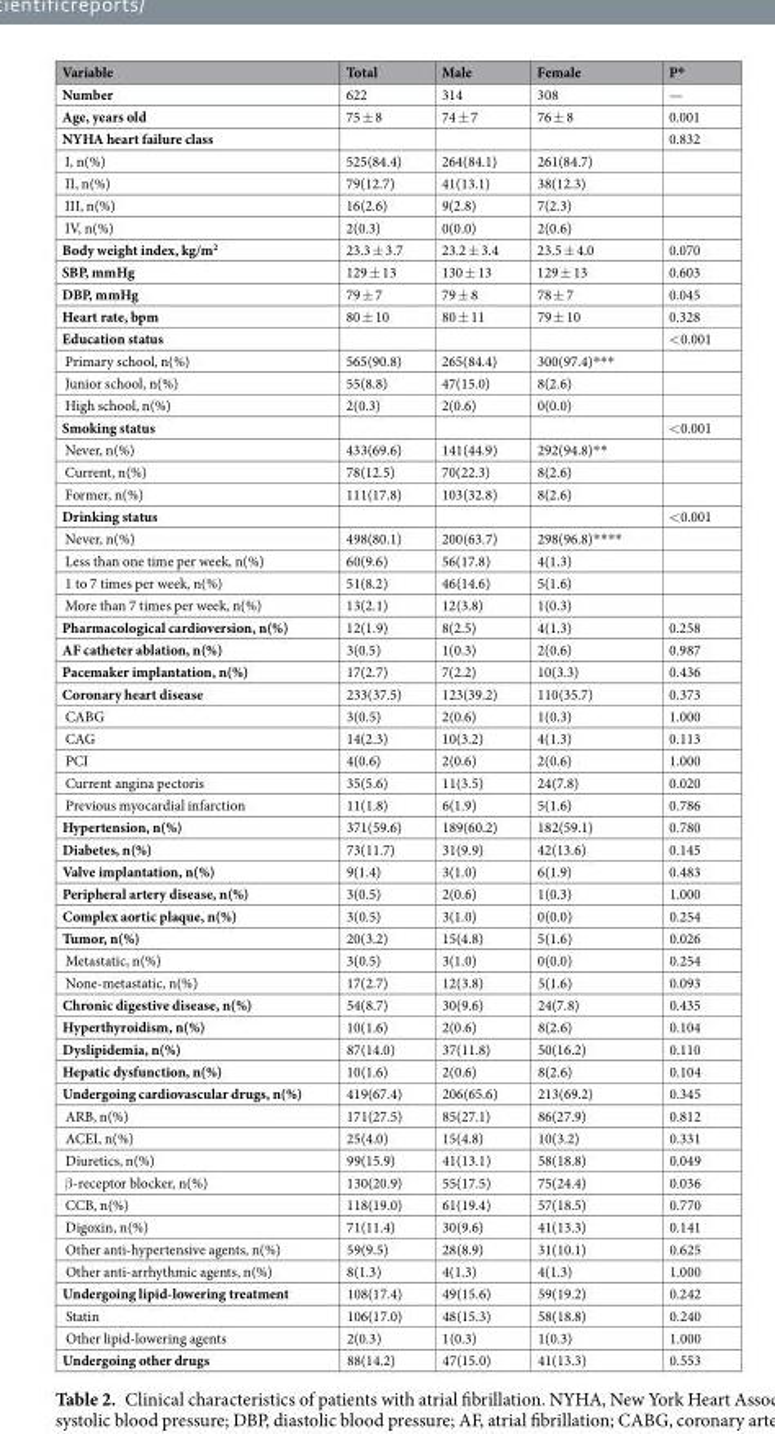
<table><thead><tr><td>Variable</td><td>Total</td><td>Male</td><td>Female</td><td>P*</td></tr></thead><tbody><tr><td>Number</td><td>622</td><td>314</td><td>308</td><td>—</td></tr><tr><td>Age, years old</td><td>75 ± 8</td><td>74 ± 7</td><td>76 ± 8</td><td>0.001</td></tr><tr><td>NYHA heart failure class</td><td></td><td></td><td></td><td>0.832</td></tr><tr><td>I, n(%)</td><td>525(84.4)</td><td>264(84.1)</td><td>261(84.7)</td><td></td></tr><tr><td>II, n(%)</td><td>79(12.7)</td><td>41(13.1)</td><td>38(12.3)</td><td></td></tr><tr><td>III, n(%)</td><td>16(2.6)</td><td>9(2.8)</td><td>7(2.3)</td><td></td></tr><tr><td>IV, n(%)</td><td>2(0.3)</td><td>0(0.0)</td><td>2(0.6)</td><td></td></tr><tr><td>Body weight index, kg/m<sup>2</sup></td><td>23.3 ± 3.7</td><td>23.2 ± 3.4</td><td>23.5 ± 4.0</td><td>0.070</td></tr><tr><td>SBP, mmHg</td><td>129 ± 13</td><td>130 ± 13</td><td>129 ± 13</td><td>0.603</td></tr><tr><td>DBP, mmHg</td><td>79 ± 7</td><td>79 ± 8</td><td>78 ± 7</td><td>0.045</td></tr><tr><td>Heart rate, bpm</td><td>80 ± 10</td><td>80 ± 11</td><td>79 ± 10</td><td>0.328</td></tr><tr><td>Education status</td><td></td><td></td><td></td><td>&lt;0.001</td></tr><tr><td>Primary school, n(%)</td><td>565(90.8)</td><td>265(84.4)</td><td>300(97.4)***</td><td></td></tr><tr><td>Junior school, n(%)</td><td>55(8.8)</td><td>47(15.0)</td><td>8(2.6)</td><td></td></tr><tr><td>High school, n(%)</td><td>2(0.3)</td><td>2(0.6)</td><td>0(0.0)</td><td></td></tr><tr><td>Smoking status</td><td></td><td></td><td></td><td>&lt;0.001</td></tr><tr><td>Never, n(%)</td><td>433(69.6)</td><td>141(44.9)</td><td>292(94.8)**</td><td></td></tr><tr><td>Current, n(%)</td><td>78(12.5)</td><td>70(22.3)</td><td>8(2.6)</td><td></td></tr><tr><td>Former, n(%)</td><td>111(17.8)</td><td>103(32.8)</td><td>8(2.6)</td><td></td></tr><tr><td>Drinking status</td><td></td><td></td><td></td><td>&lt;0.001</td></tr><tr><td>Never, n(%)</td><td>498(80.1)</td><td>200(63.7)</td><td>298(96.8)****</td><td></td></tr><tr><td>Less than one time per week, n(%)</td><td>60(9.6)</td><td>56(17.8)</td><td>4(1.3)</td><td></td></tr><tr><td>1 to 7 times per week, n(%)</td><td>51(8.2)</td><td>46(14.6)</td><td>5(1.6)</td><td></td></tr><tr><td>More than 7 times per week, n(%)</td><td>13(2.1)</td><td>12(3.8)</td><td>1(0.3)</td><td></td></tr><tr><td>Pharmacological cardioversion, n(%)</td><td>12(1.9)</td><td>8(2.5)</td><td>4(1.3)</td><td>0.258</td></tr><tr><td>AF catheter ablation, n(%)</td><td>3(0.5)</td><td>1(0.3)</td><td>2(0.6)</td><td>0.987</td></tr><tr><td>Pacemaker implantation, n(%)</td><td>17(2.7)</td><td>7(2.2)</td><td>10(3.3)</td><td>0.436</td></tr><tr><td>Coronary heart disease</td><td>233(37.5)</td><td>123(39.2)</td><td>110(35.7)</td><td>0.373</td></tr><tr><td>CABG</td><td>3(0.5)</td><td>2(0.6)</td><td>1(0.3)</td><td>1.000</td></tr><tr><td>CAG</td><td>14(2.3)</td><td>10(3.2)</td><td>4(1.3)</td><td>0.113</td></tr><tr><td>PCI</td><td>4(0.6)</td><td>2(0.6)</td><td>2(0.6)</td><td>1.000</td></tr><tr><td>Current angina pectoris</td><td>35(5.6)</td><td>11(3.5)</td><td>24(7.8)</td><td>0.020</td></tr><tr><td>Previous myocardial infarction</td><td>11(1.8)</td><td>6(1.9)</td><td>5(1.6)</td><td>0.786</td></tr><tr><td>Hypertension, n(%)</td><td>371(59.6)</td><td>189(60.2)</td><td>182(59.1)</td><td>0.780</td></tr><tr><td>Diabetes, n(%)</td><td>73(11.7)</td><td>31(9.9)</td><td>42(13.6)</td><td>0.145</td></tr><tr><td>Valve implantation, n(%)</td><td>9(1.4)</td><td>3(1.0)</td><td>6(1.9)</td><td>0.483</td></tr><tr><td>Peripheral artery disease, n(%)</td><td>3(0.5)</td><td>2(0.6)</td><td>1(0.3)</td><td>1.000</td></tr><tr><td>Complex aortic plaque, n(%)</td><td>3(0.5)</td><td>3(1.0)</td><td>0(0.0)</td><td>0.254</td></tr><tr><td>Tumor, n(%)</td><td>20(3.2)</td><td>15(4.8)</td><td>5(1.6)</td><td>0.026</td></tr><tr><td>Metastatic, n(%)</td><td>3(0.5)</td><td>3(1.0)</td><td>0(0.0)</td><td>0.254</td></tr><tr><td>None-metastatic, n(%)</td><td>17(2.7)</td><td>12(3.8)</td><td>5(1.6)</td><td>0.093</td></tr><tr><td>Chronic digestive disease, n(%)</td><td>54(8.7)</td><td>30(9.6)</td><td>24(7.8)</td><td>0.435</td></tr><tr><td>Hyperthyroidism, n(%)</td><td>10(1.6)</td><td>2(0.6)</td><td>8(2.6)</td><td>0.104</td></tr><tr><td>Dyslipidemia, n(%)</td><td>87(14.0)</td><td>37(11.8)</td><td>50(16.2)</td><td>0.110</td></tr><tr><td>Hepatic dysfunction, n(%)</td><td>10(1.6)</td><td>2(0.6)</td><td>8(2.6)</td><td>0.104</td></tr><tr><td>Undergoing cardiovascular drugs, n(%)</td><td>419(67.4)</td><td>206(65.6)</td><td>213(69.2)</td><td>0.345</td></tr><tr><td>ARB, n(%)</td><td>171(27.5)</td><td>85(27.1)</td><td>86(27.9)</td><td>0.812</td></tr><tr><td>ACEI, n(%)</td><td>25(4.0)</td><td>15(4.8)</td><td>10(3.2)</td><td>0.331</td></tr><tr><td>Diuretics, n(%)</td><td>99(15.9)</td><td>41(13.1)</td><td>58(18.8)</td><td>0.049</td></tr><tr><td>β-receptor blocker, n(%)</td><td>130(20.9)</td><td>55(17.5)</td><td>75(24.4)</td><td>0.036</td></tr><tr><td>CCB, n(%)</td><td>118(19.0)</td><td>61(19.4)</td><td>57(18.5)</td><td>0.770</td></tr><tr><td>Digoxin, n(%)</td><td>71(11.4)</td><td>30(9.6)</td><td>41(13.3)</td><td>0.141</td></tr><tr><td>Other anti-hypertensive agents, n(%)</td><td>59(9.5)</td><td>28(8.9)</td><td>31(10.1)</td><td>0.625</td></tr><tr><td>Other anti-arrhythmic agents, n(%)</td><td>8(1.3)</td><td>4(1.3)</td><td>4(1.3)</td><td>1.000</td></tr><tr><td>Undergoing lipid-lowering treatment</td><td>108(17.4)</td><td>49(15.6)</td><td>59(19.2)</td><td>0.242</td></tr><tr><td>Statin</td><td>106(17.0)</td><td>48(15.3)</td><td>58(18.8)</td><td>0.240</td></tr><tr><td>Other lipid-lowering agents</td><td>2(0.3)</td><td>1(0.3)</td><td>1(0.3)</td><td>1.000</td></tr><tr><td>Undergoing other drugs</td><td>88(14.2)</td><td>47(15.0)</td><td>41(13.3)</td><td>0.553</td></tr></tbody></table>